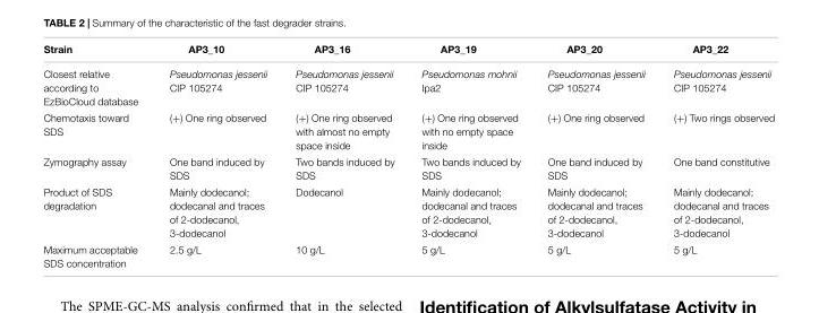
<table><thead><tr><td>Strain</td><td>AP3_10</td><td>AP3_16</td><td>AP3_19</td><td>AP3_20</td><td>AP3_22</td></tr></thead><tbody><tr><td>Closest relative according to EzBioCloud database</td><td>Pseudomonas jessenii CIP 105274</td><td>Pseudomonas jessenii CIP 105274</td><td>Pseudomonas mohnii Ipa2</td><td>Pseudomonas jessenii CIP 105274</td><td>Pseudomonas jessenii CIP 105274</td></tr><tr><td>Chemotaxis toward SDS</td><td>(+) One ring observed</td><td>(+) One ring observed with almost no empty space inside</td><td>(+) One ring observed with no empty space inside</td><td>(+) One ring observed</td><td>(+) Two rings observed</td></tr><tr><td>Zymography assay</td><td>One band induced by SDS</td><td>Two bands induced by SDS</td><td>Two bands induced by SDS</td><td>One band induced by SDS</td><td>One band constitutive</td></tr><tr><td>Product of SDS degradation</td><td>Mainly dodecanol; dodecanal and traces of 2-dodecanol, 3-dodecanol</td><td>Dodecanol</td><td>Mainly dodecanol; dodecanal and traces of 2-dodecanol, 3-dodecanol</td><td>Mainly dodecanol; dodecanal and traces of 2-dodecanol, 3-dodecanol</td><td>Mainly dodecanol; dodecanal and traces of 2-dodecanol, 3-dodecanol</td></tr><tr><td>Maximum acceptable SDS concentration</td><td>2.5 g/L</td><td>10 g/L</td><td>5 g/L</td><td>5 g/L</td><td>5 g/L</td></tr></tbody></table>